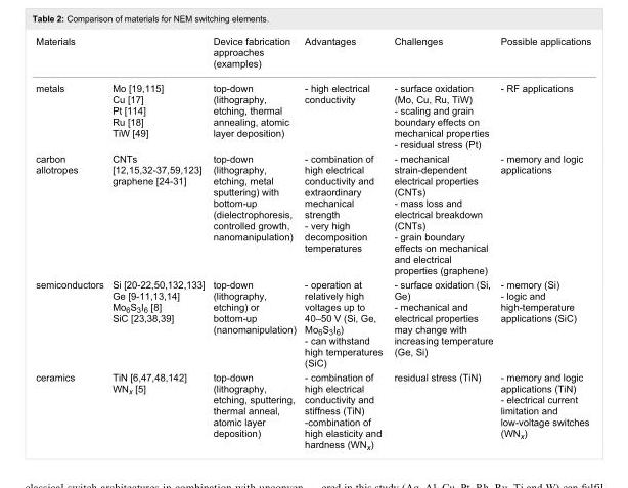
<table><tbody><tr><td>Materials</td><td></td><td>Device fabrication approaches (examples)</td><td>Advantages</td><td>Challenges</td><td>Possible applications</td></tr><tr><td>metals</td><td>Mo [19,115] Cu [17] Pt [114] Ru [18] TiW [49]</td><td>top-down (lithography, etching, thermal annealing, atomic layer deposition)</td><td>- high electrical conductivity</td><td>- surface oxidation (Mo, Cu, Ru, TiW) - scaling and grain boundary effects on mechanical properties - residual stress (Pt)</td><td>- RF applications</td></tr><tr><td>carbon allotropes</td><td>CNTs [12,15,32-37,59,123] graphene [24-31]</td><td>top-down (lithography, etching, metal sputtering) with bottom-up (dielectrophoresis, controlled growth, nanomanipulation)</td><td>- combination of high electrical conductivity and extraordinary mechanical strength - very high decomposition temperatures</td><td>- mechanical strain-dependent electrical properties (CNTs) - mass loss and electrical breakdown (CNTs) - grain boundary effects on mechanical and electrical properties (graphene)</td><td>- memory and logic applications</td></tr><tr><td>semiconductors</td><td>Si [20-22,50,132,133] Ge [9-11,13,14] Mo6S3I6 [8] SiC [23,38,39]</td><td>top-down (lithography, etching) or bottom-up (nanomanipulation)</td><td>- operation at relatively high voltages up to 40–50 V (Si, Ge, Mo<sub>6</sub>S<sub>3</sub>I<sub>6</sub>) - can withstand high temperatures (SiC)</td><td>- surface oxidation (Si, Ge) - mechanical and electrical properties may change with increasing temperature (Ge, Si)</td><td>- memory (Si) - logic and high-temperature applications (SiC)</td></tr><tr><td>ceramics</td><td>TiN [6,47,48,142] WNx [5]</td><td>top-down (lithography, etching, sputtering, thermal anneal, atomic layer deposition)</td><td>- combination of high electrical conductivity and stiffness (TiN) -combination of high elasticity and hardness (WN<sub>x</sub>)</td><td>residual stress (TiN)</td><td>- memory and logic applications (TiN) - electrical current limitation and low-voltage switches (WN<sub>x</sub>)</td></tr></tbody></table>